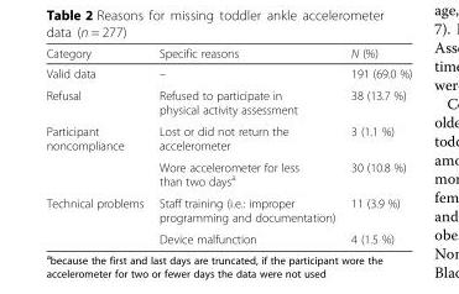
<table><thead><tr><td>Category</td><td>Specific reasons</td><td>N (%)</td></tr></thead><tbody><tr><td>Valid data</td><td>–</td><td>191 (69.0 %)</td></tr><tr><td>Refusal</td><td>Refused to participate in physical activity assessment</td><td>38 (13.7 %)</td></tr><tr><td rowspan="2">Participant noncompliance</td><td>Lost or did not return the accelerometer</td><td>3 (1.1 %)</td></tr><tr><td>Wore accelerometer for less than two days<sup>a</sup></td><td>30 (10.8 %)</td></tr><tr><td rowspan="2">Technical problems</td><td>Staff training (i.e.: improper programming and documentation)</td><td>11 (3.9 %)</td></tr><tr><td>Device malfunction</td><td>4 (1.5 %)</td></tr></tbody></table>